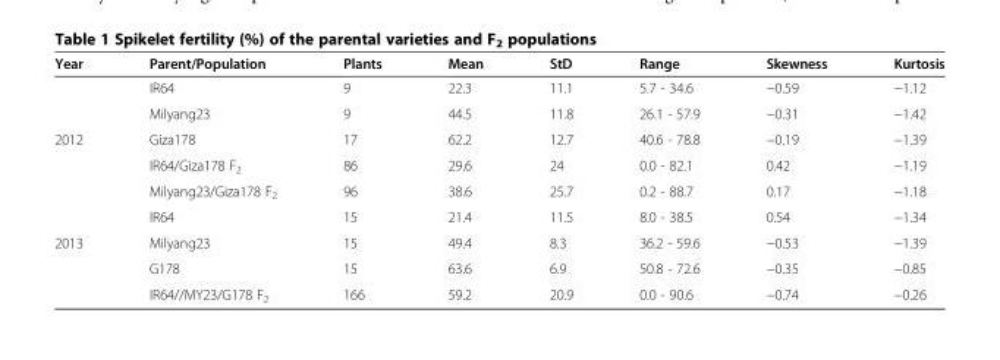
<table><thead><tr><td>Year</td><td>Parent/Population</td><td>Plants</td><td>Mean</td><td>StD</td><td>Range</td><td>Skewness</td><td>Kurtosis</td></tr></thead><tbody><tr><td></td><td>IR64</td><td>9</td><td>22.3</td><td>11.1</td><td>5.7 - 34.6</td><td>−0.59</td><td>−1.12</td></tr><tr><td></td><td>Milyang23</td><td>9</td><td>44.5</td><td>11.8</td><td>26.1 - 57.9</td><td>−0.31</td><td>−1.42</td></tr><tr><td rowspan="4">2012</td><td>Giza178</td><td>17</td><td>62.2</td><td>12.7</td><td>40.6 - 78.8</td><td>−0.19</td><td>−1.39</td></tr><tr><td>IR64/Giza178 F<sub>2</sub></td><td>86</td><td>29.6</td><td>24</td><td>0.0 - 82.1</td><td>0.42</td><td>−1.19</td></tr><tr><td>Milyang23/Giza178 F<sub>2</sub></td><td>96</td><td>38.6</td><td>25.7</td><td>0.2 - 88.7</td><td>0.17</td><td>−1.18</td></tr><tr><td>IR64</td><td>15</td><td>21.4</td><td>11.5</td><td>8.0 - 38.5</td><td>0.54</td><td>−1.34</td></tr><tr><td rowspan="3">2013</td><td>Milyang23</td><td>15</td><td>49.4</td><td>8.3</td><td>36.2 - 59.6</td><td>−0.53</td><td>−1.39</td></tr><tr><td>G178</td><td>15</td><td>63.6</td><td>6.9</td><td>50.8 - 72.6</td><td>−0.35</td><td>−0.85</td></tr><tr><td>IR64//MY23/G178 F<sub>2</sub></td><td>166</td><td>59.2</td><td>20.9</td><td>0.0 - 90.6</td><td>−0.74</td><td>−0.26</td></tr></tbody></table>